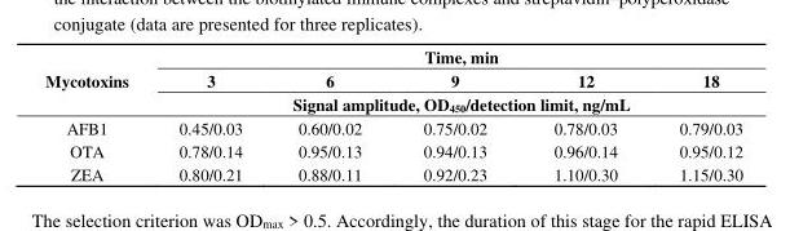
<table><thead><tr><td rowspan="3">Mycotoxins</td><td colspan="5">Time, min</td></tr><tr><td>3</td><td>6</td><td>9</td><td>12</td><td>18</td></tr><tr><td colspan="5">Signal amplitude, OD<sub>450</sub>/detection limit, ng/mL</td></tr></thead><tbody><tr><td>AFB1</td><td>0.45/0.03</td><td>0.60/0.02</td><td>0.75/0.02</td><td>0.78/0.03</td><td>0.79/0.03</td></tr><tr><td>OTA</td><td>0.78/0.14</td><td>0.95/0.13</td><td>0.94/0.13</td><td>0.96/0.14</td><td>0.95/0.12</td></tr><tr><td>ZEA</td><td>0.80/0.21</td><td>0.88/0.11</td><td>0.92/0.23</td><td>1.10/0.30</td><td>1.15/0.30</td></tr></tbody></table>